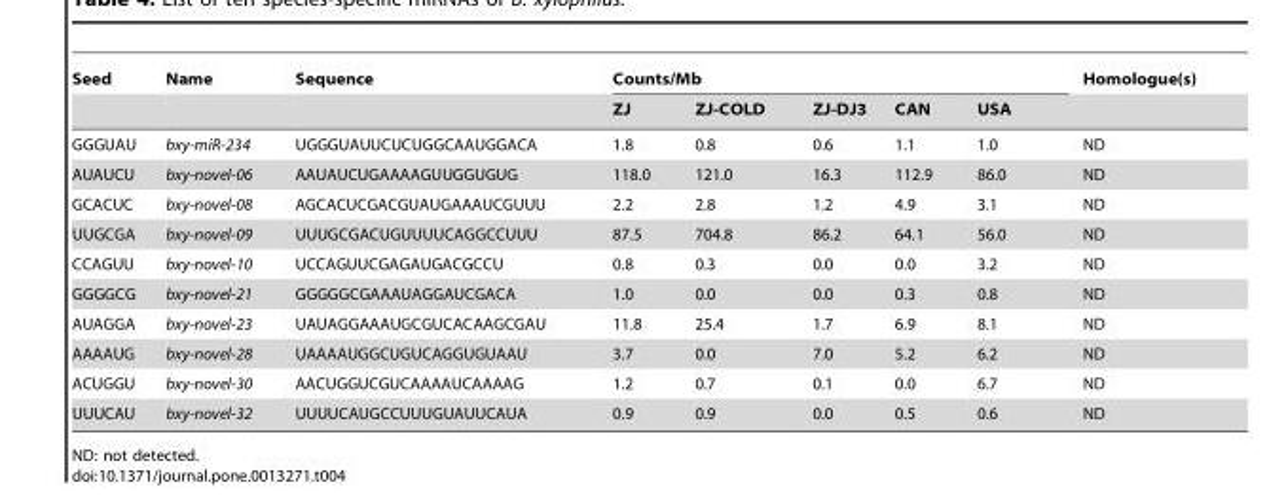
<table><thead><tr><td rowspan="2">Seed</td><td rowspan="2">Name</td><td rowspan="2">Sequence</td><td colspan="5">Counts/Mb</td><td rowspan="2">Homologue(s)</td></tr><tr><td>ZJ</td><td>ZJ-COLD</td><td>ZJ-DJ3</td><td>CAN</td><td>USA</td></tr></thead><tbody><tr><td>GGGUAU</td><td>bxy-miR-234</td><td>UGGGUAUUCUCUGGCAAUGGACA</td><td>1.8</td><td>0.8</td><td>0.6</td><td>1.1</td><td>1.0</td><td>ND</td></tr><tr><td>AUAUCU</td><td>bxy-novel-06</td><td>AAUAUCUGAAAAGUUGGUGUG</td><td>118.0</td><td>121.0</td><td>16.3</td><td>112.9</td><td>86.0</td><td>ND</td></tr><tr><td>GCACUC</td><td>bxy-novel-08</td><td>AGCACUCGACGUAUGAAAUCGUUU</td><td>2.2</td><td>2.8</td><td>1.2</td><td>4.9</td><td>3.1</td><td>ND</td></tr><tr><td>UUGCGA</td><td>bxy-novel-09</td><td>UUUGCGACUGUUUUCAGGCCUUU</td><td>87.5</td><td>704.8</td><td>86.2</td><td>64.1</td><td>56.0</td><td>ND</td></tr><tr><td>CCAGUU</td><td>bxy-novel-10</td><td>UCCAGUUCGAGAUGACGCCU</td><td>0.8</td><td>0.3</td><td>0.0</td><td>0.0</td><td>3.2</td><td>ND</td></tr><tr><td>GGGGCG</td><td>bxy-novel-21</td><td>GGGGGCGAAAUAGGAUCGACA</td><td>1.0</td><td>0.0</td><td>0.0</td><td>0.3</td><td>0.8</td><td>ND</td></tr><tr><td>AUAGGA</td><td>bxy-novel-23</td><td>UAUAGGAAAUGCGUCACAAGCGAU</td><td>11.8</td><td>25.4</td><td>1.7</td><td>6.9</td><td>8.1</td><td>ND</td></tr><tr><td>AAAAUG</td><td>bxy-novel-28</td><td>UAAAAUGGCUGUCAGGUGUAAU</td><td>3.7</td><td>0.0</td><td>7.0</td><td>5.2</td><td>6.2</td><td>ND</td></tr><tr><td>ACUGGU</td><td>bxy-novel-30</td><td>AACUGGUCGUCAAAAUCAAAAG</td><td>1.2</td><td>0.7</td><td>0.1</td><td>0.0</td><td>6.7</td><td>ND</td></tr><tr><td>UUUCAU</td><td>bxy-novel-32</td><td>UUUUCAUGCCUUUGUAUUCAUA</td><td>0.9</td><td>0.9</td><td>0.0</td><td>0.5</td><td>0.6</td><td>ND</td></tr></tbody></table>